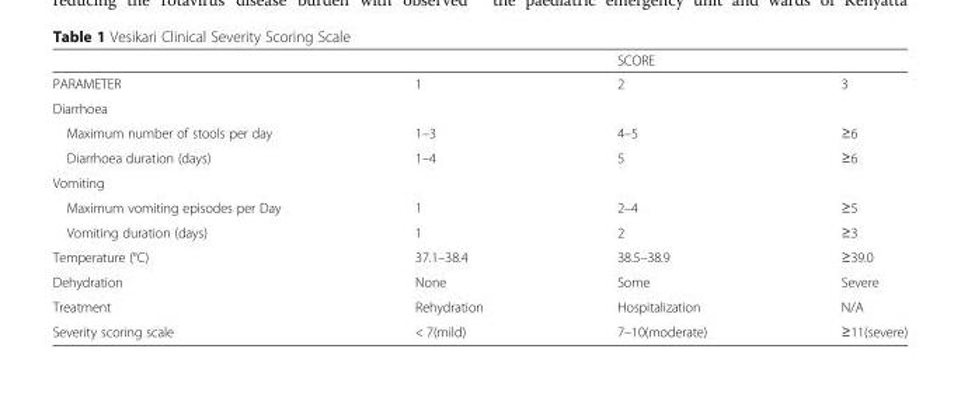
<table><thead><tr><td rowspan="2">PARAMETER</td><td rowspan="2">1</td><td colspan="2">SCORE</td></tr><tr><td>2</td><td>3</td></tr></thead><tbody><tr><td colspan="4">Diarrhoea</td></tr><tr><td>Maximum number of stools per day</td><td>1–3</td><td>4–5</td><td>≥6</td></tr><tr><td>Diarrhoea duration (days)</td><td>1–4</td><td>5</td><td>≥6</td></tr><tr><td colspan="4">Vomiting</td></tr><tr><td>Maximum vomiting episodes per Day</td><td>1</td><td>2–4</td><td>≥5</td></tr><tr><td>Vomiting duration (days)</td><td>1</td><td>2</td><td>≥3</td></tr><tr><td>Temperature (°C)</td><td>37.1–38.4</td><td>38.5–38.9</td><td>≥39.0</td></tr><tr><td>Dehydration</td><td>None</td><td>Some</td><td>Severe</td></tr><tr><td>Treatment</td><td>Rehydration</td><td>Hospitalization</td><td>N/A</td></tr><tr><td>Severity scoring scale</td><td>&lt; 7(mild)</td><td>7–10(moderate)</td><td>≥11(severe)</td></tr></tbody></table>